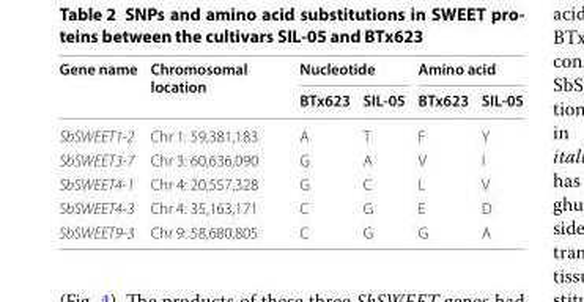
<table><thead><tr><td rowspan="2">Gene name</td><td rowspan="2">Chromosomal location</td><td colspan="2">Nucleotide</td><td colspan="2">Amino acid</td></tr><tr><td>BTx623</td><td>SIL‑05</td><td>BTx623</td><td>SIL‑05</td></tr></thead><tbody><tr><td>SbSWEET1-2</td><td>Chr 1: 59,381,183</td><td>A</td><td>T</td><td>F</td><td>Y</td></tr><tr><td>SbSWEET3-7</td><td>Chr 3: 60,636,090</td><td>G</td><td>A</td><td>V</td><td>I</td></tr><tr><td>SbSWEET4-1</td><td>Chr 4: 20,557,328</td><td>G</td><td>C</td><td>L</td><td>V</td></tr><tr><td>SbSWEET4-3</td><td>Chr 4: 35,163,171</td><td>C</td><td>G</td><td>E</td><td>D</td></tr><tr><td>SbSWEET9-3</td><td>Chr 9: 58,680,805</td><td>C</td><td>G</td><td>G</td><td>A</td></tr></tbody></table>